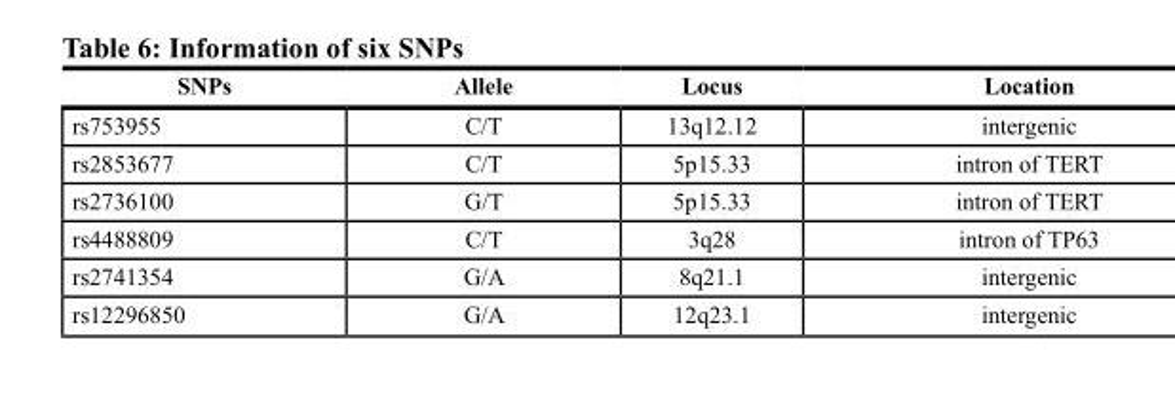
<table><thead><tr><td>snPs</td><td>Allele</td><td>locus</td><td>location</td></tr></thead><tbody><tr><td>rs753955</td><td>C/T</td><td>13q12.12</td><td>intergenic</td></tr><tr><td>rs2853677</td><td>C/T</td><td>5p15.33</td><td>intron of TERT</td></tr><tr><td>rs2736100</td><td>G/T</td><td>5p15.33</td><td>intron of TERT</td></tr><tr><td>rs4488809</td><td>C/T</td><td>3q28</td><td>intron of TP63</td></tr><tr><td>rs2741354</td><td>G/A</td><td>8q21.1</td><td>intergenic</td></tr><tr><td>rs12296850</td><td>G/A</td><td>12q23.1</td><td>intergenic</td></tr></tbody></table>